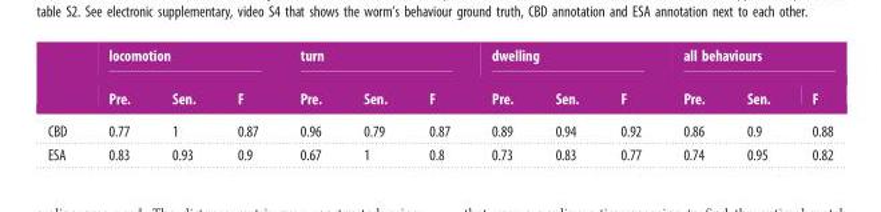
<table><thead><tr><td rowspan="2"></td><td colspan="3">locomotion</td><td colspan="3">turn</td><td colspan="3">dwelling</td><td colspan="3">all behaviours</td></tr><tr><td>Pre.</td><td>Sen.</td><td>F</td><td>Pre.</td><td>Sen.</td><td>F</td><td>Pre.</td><td>Sen.</td><td>F</td><td>Pre.</td><td>Sen.</td><td>F</td></tr></thead><tbody><tr><td>CBD</td><td>0.77</td><td>1</td><td>0.87</td><td>0.96</td><td>0.79</td><td>0.87</td><td>0.89</td><td>0.94</td><td>0.92</td><td>0.86</td><td>0.9</td><td>0.88</td></tr><tr><td>ESA</td><td>0.83</td><td>0.93</td><td>0.9</td><td>0.67</td><td>1</td><td>0.8</td><td>0.73</td><td>0.83</td><td>0.77</td><td>0.74</td><td>0.95</td><td>0.82</td></tr></tbody></table>